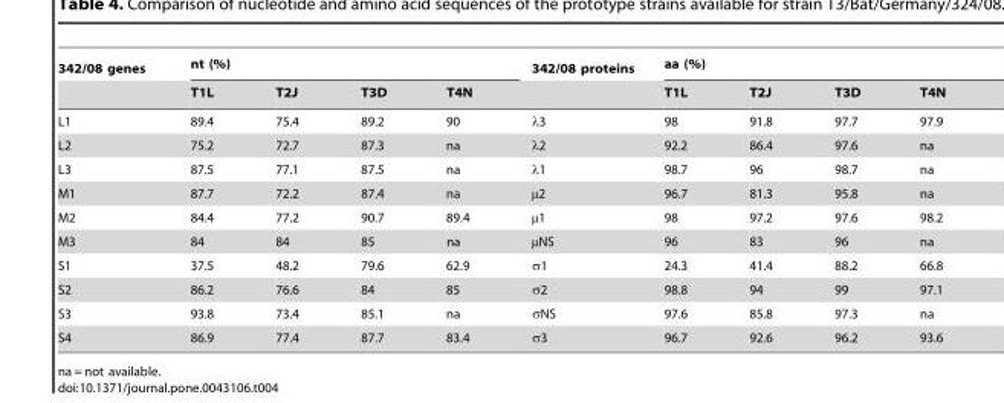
<table><thead><tr><td rowspan="2">342/08 genes</td><td colspan="4">nt (%)</td><td rowspan="2">342/08 proteins</td><td colspan="4">aa (%)</td></tr><tr><td>T1L</td><td>T2J</td><td>T3D</td><td>T4N</td><td>T1L</td><td>T2J</td><td>T3D</td><td>T4N</td></tr></thead><tbody><tr><td>L1</td><td>89.4</td><td>75.4</td><td>89.2</td><td>90</td><td>λ3</td><td>98</td><td>91.8</td><td>97.7</td><td>97.9</td></tr><tr><td>L2</td><td>75.2</td><td>72.7</td><td>87.3</td><td>na</td><td>λ2</td><td>92.2</td><td>86.4</td><td>97.6</td><td>na</td></tr><tr><td>L3</td><td>87.5</td><td>77.1</td><td>87.5</td><td>na</td><td>λ1</td><td>98.7</td><td>96</td><td>98.7</td><td>na</td></tr><tr><td>M1</td><td>87.7</td><td>72.2</td><td>87.4</td><td>na</td><td>µ2</td><td>96.7</td><td>81.3</td><td>95.8</td><td>na</td></tr><tr><td>M2</td><td>84.4</td><td>77.2</td><td>90.7</td><td>89.4</td><td>µ1</td><td>98</td><td>97.2</td><td>97.6</td><td>98.2</td></tr><tr><td>M3</td><td>84</td><td>84</td><td>85</td><td>na</td><td>µNS</td><td>96</td><td>83</td><td>96</td><td>na</td></tr><tr><td>S1</td><td>37.5</td><td>48.2</td><td>79.6</td><td>62.9</td><td>σ1</td><td>24.3</td><td>41.4</td><td>88.2</td><td>66.8</td></tr><tr><td>S2</td><td>86.2</td><td>76.6</td><td>84</td><td>85</td><td>σ2</td><td>98.8</td><td>94</td><td>99</td><td>97.1</td></tr><tr><td>S3</td><td>93.8</td><td>73.4</td><td>85.1</td><td>na</td><td>σNS</td><td>97.6</td><td>85.8</td><td>97.3</td><td>na</td></tr><tr><td>S4</td><td>86.9</td><td>77.4</td><td>87.7</td><td>83.4</td><td>σ3</td><td>96.7</td><td>92.6</td><td>96.2</td><td>93.6</td></tr></tbody></table>